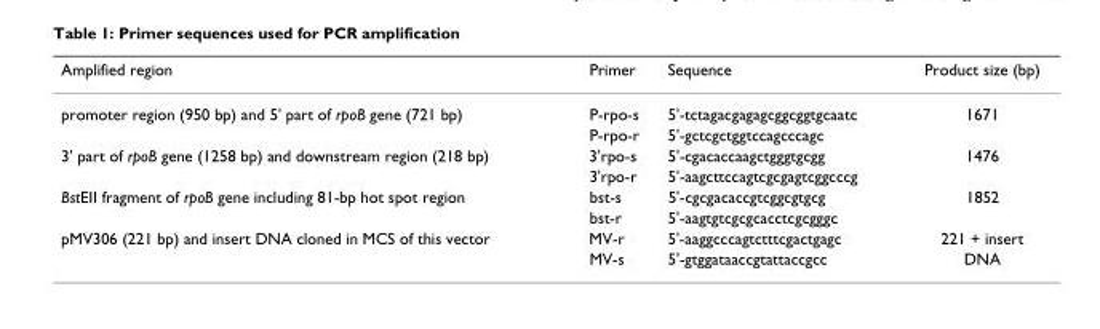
<table><thead><tr><td>Amplified region</td><td>Primer</td><td>Sequence</td><td>Product size (bp)</td></tr></thead><tbody><tr><td rowspan="2">promoter region (950 bp) and 5&#x27; part of rpoB gene (721 bp)</td><td>P-rpo-s</td><td>5&#x27;-tctagacgagagcggcggtgcaatc</td><td>1671</td></tr><tr><td>P-rpo-r</td><td>5&#x27;-gctcgctggtccagcccagc</td><td></td></tr><tr><td rowspan="2">3&#x27; part of rpoB gene (1258 bp) and downstream region (218 bp)</td><td>3&#x27;rpo-s</td><td>5&#x27;-cgacaccaagctgggtgcgg</td><td>1476</td></tr><tr><td>3&#x27;rpo-r</td><td>5&#x27;-aagcttccagtcgcgagtcggcccg</td><td></td></tr><tr><td rowspan="2">BstEII fragment of rpoB gene including 81-bp hot spot region</td><td>bst-s</td><td>5&#x27;-cgcgacaccgtcggcgtgcg</td><td>1852</td></tr><tr><td>bst-r</td><td>5&#x27;-aagtgtcgcgcacctcgcgggc</td><td></td></tr><tr><td rowspan="2">pMV306 (221 bp) and insert DNA cloned in MCS of this vector</td><td>MV-r</td><td>5&#x27;-aaggcccagtctttcgactgagc</td><td>221 + insert</td></tr><tr><td>MV-s</td><td>5&#x27;-gtggataaccgtattaccgcc</td><td>DNA</td></tr></tbody></table>